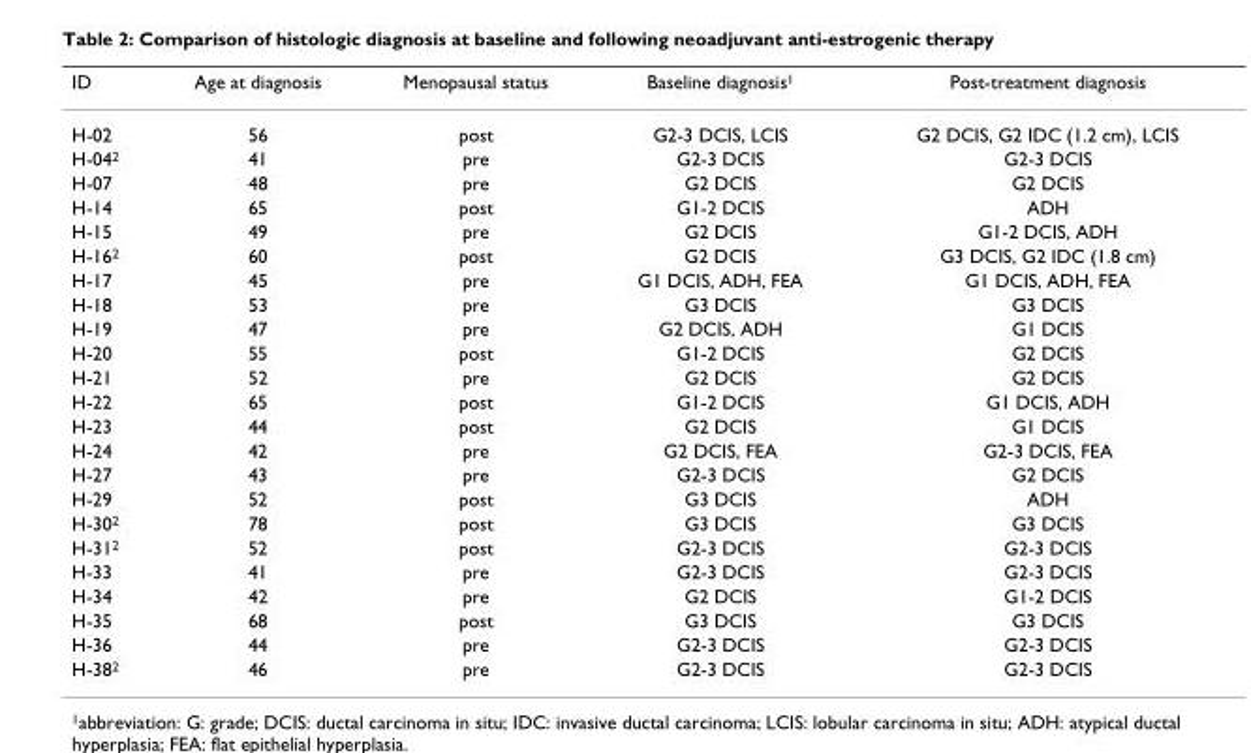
<table><thead><tr><td>ID</td><td>Age at diagnosis</td><td>Menopausal status</td><td>Baseline diagnosis<sup>1</sup></td><td>Post-treatment diagnosis</td></tr></thead><tbody><tr><td>H-02</td><td>56</td><td>post</td><td>G2-3 DCIS, LCIS</td><td>G2 DCIS, G2 IDC (1.2 cm), LCIS</td></tr><tr><td>H-04<sup>2</sup></td><td>41</td><td>pre</td><td>G2-3 DCIS</td><td>G2-3 DCIS</td></tr><tr><td>H-07</td><td>48</td><td>pre</td><td>G2 DCIS</td><td>G2 DCIS</td></tr><tr><td>H-14</td><td>65</td><td>post</td><td>G1-2 DCIS</td><td>ADH</td></tr><tr><td>H-15</td><td>49</td><td>pre</td><td>G2 DCIS</td><td>G1-2 DCIS, ADH</td></tr><tr><td>H-16<sup>2</sup></td><td>60</td><td>post</td><td>G2 DCIS</td><td>G3 DCIS, G2 IDC (1.8 cm)</td></tr><tr><td>H-17</td><td>45</td><td>pre</td><td>G1 DCIS, ADH, FEA</td><td>G1 DCIS, ADH, FEA</td></tr><tr><td>H-18</td><td>53</td><td>pre</td><td>G3 DCIS</td><td>G3 DCIS</td></tr><tr><td>H-19</td><td>47</td><td>pre</td><td>G2 DCIS, ADH</td><td>G1 DCIS</td></tr><tr><td>H-20</td><td>55</td><td>post</td><td>G1-2 DCIS</td><td>G2 DCIS</td></tr><tr><td>H-21</td><td>52</td><td>pre</td><td>G2 DCIS</td><td>G2 DCIS</td></tr><tr><td>H-22</td><td>65</td><td>post</td><td>G1-2 DCIS</td><td>G1 DCIS, ADH</td></tr><tr><td>H-23</td><td>44</td><td>post</td><td>G2 DCIS</td><td>G1 DCIS</td></tr><tr><td>H-24</td><td>42</td><td>pre</td><td>G2 DCIS, FEA</td><td>G2-3 DCIS, FEA</td></tr><tr><td>H-27</td><td>43</td><td>pre</td><td>G2-3 DCIS</td><td>G2 DCIS</td></tr><tr><td>H-29</td><td>52</td><td>post</td><td>G3 DCIS</td><td>ADH</td></tr><tr><td>H-30<sup>2</sup></td><td>78</td><td>post</td><td>G3 DCIS</td><td>G3 DCIS</td></tr><tr><td>H-31<sup>2</sup></td><td>52</td><td>post</td><td>G2-3 DCIS</td><td>G2-3 DCIS</td></tr><tr><td>H-33</td><td>41</td><td>pre</td><td>G2-3 DCIS</td><td>G2-3 DCIS</td></tr><tr><td>H-34</td><td>42</td><td>pre</td><td>G2 DCIS</td><td>G1-2 DCIS</td></tr><tr><td>H-35</td><td>68</td><td>post</td><td>G3 DCIS</td><td>G3 DCIS</td></tr><tr><td>H-36</td><td>44</td><td>pre</td><td>G2-3 DCIS</td><td>G2-3 DCIS</td></tr><tr><td>H-38<sup>2</sup></td><td>46</td><td>pre</td><td>G2-3 DCIS</td><td>G2-3 DCIS</td></tr></tbody></table>